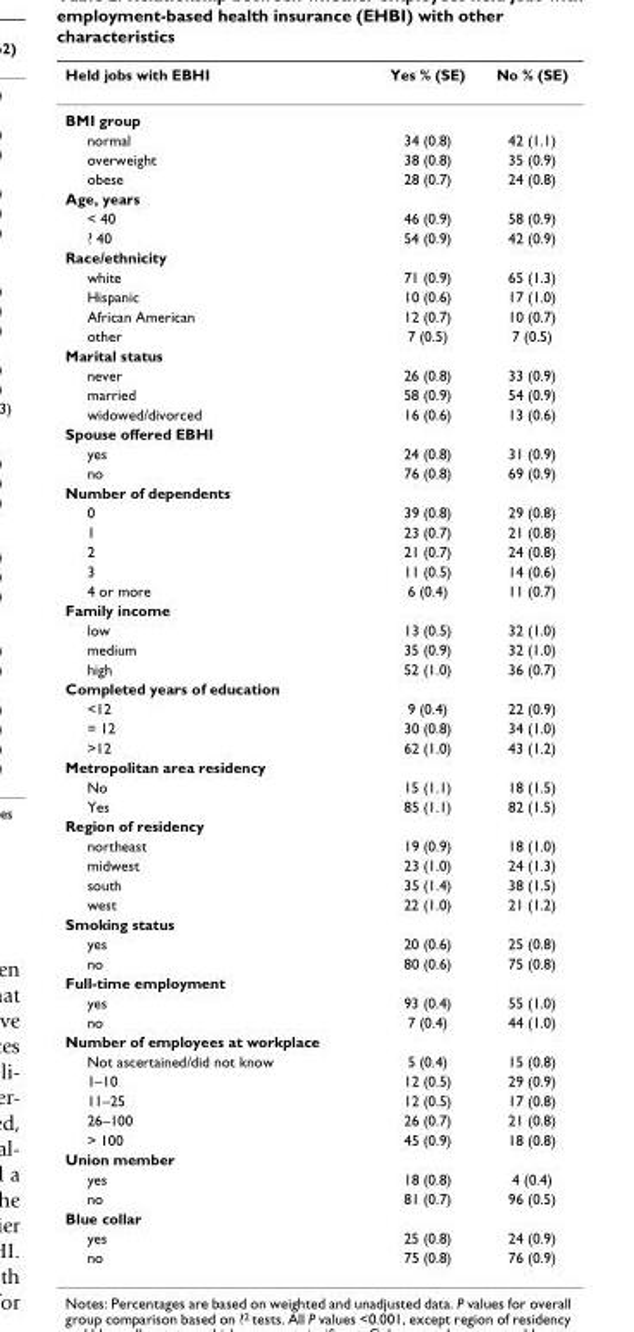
<table><thead><tr><td>Held jobs with EBHI</td><td>Yes % (SE)</td><td>No % (SE)</td></tr></thead><tbody><tr><td colspan="3">BMI group</td></tr><tr><td>normal</td><td>34 (0.8)</td><td>42 (1.1)</td></tr><tr><td>overweight</td><td>38 (0.8)</td><td>35 (0.9)</td></tr><tr><td>obese</td><td>28 (0.7)</td><td>24 (0.8)</td></tr><tr><td colspan="3">Age, years</td></tr><tr><td>&lt; 40</td><td>46 (0.9)</td><td>58 (0.9)</td></tr><tr><td>≥ 40</td><td>54 (0.9)</td><td>42 (0.9)</td></tr><tr><td colspan="3">Race/ethnicity</td></tr><tr><td>white</td><td>71 (0.9)</td><td>65 (1.3)</td></tr><tr><td>Hispanic</td><td>10 (0.6)</td><td>17 (1.0)</td></tr><tr><td>African American</td><td>12 (0.7)</td><td>10 (0.7)</td></tr><tr><td>other</td><td>7 (0.5)</td><td>7 (0.5)</td></tr><tr><td colspan="3">Marital status</td></tr><tr><td>never</td><td>26 (0.8)</td><td>33 (0.9)</td></tr><tr><td>married</td><td>58 (0.9)</td><td>54 (0.9)</td></tr><tr><td>widowed/divorced</td><td>16 (0.6)</td><td>13 (0.6)</td></tr><tr><td colspan="3">Spouse offered EBHI</td></tr><tr><td>yes</td><td>24 (0.8)</td><td>31 (0.9)</td></tr><tr><td>no</td><td>76 (0.8)</td><td>69 (0.9)</td></tr><tr><td colspan="3">Number of dependents</td></tr><tr><td>0</td><td>39 (0.8)</td><td>29 (0.8)</td></tr><tr><td>1</td><td>23 (0.7)</td><td>21 (0.8)</td></tr><tr><td>2</td><td>21 (0.7)</td><td>24 (0.8)</td></tr><tr><td>3</td><td>11 (0.5)</td><td>14 (0.6)</td></tr><tr><td>4 or more</td><td>6 (0.4)</td><td>11 (0.7)</td></tr><tr><td colspan="3">Family income</td></tr><tr><td>low</td><td>13 (0.5)</td><td>32 (1.0)</td></tr><tr><td>medium</td><td>35 (0.9)</td><td>32 (1.0)</td></tr><tr><td>high</td><td>52 (1.0)</td><td>36 (0.7)</td></tr><tr><td colspan="3">Completed years of education</td></tr><tr><td>&lt;12</td><td>9 (0.4)</td><td>22 (0.9)</td></tr><tr><td>= 12</td><td>30 (0.8)</td><td>34 (1.0)</td></tr><tr><td>&gt;12</td><td>62 (1.0)</td><td>43 (1.2)</td></tr><tr><td colspan="3">Metropolitan area residency</td></tr><tr><td>No</td><td>15 (1.1)</td><td>18 (1.5)</td></tr><tr><td>Yes</td><td>85 (1.1)</td><td>82 (1.5)</td></tr><tr><td colspan="3">Region of residency</td></tr><tr><td>northeast</td><td>19 (0.9)</td><td>18 (1.0)</td></tr><tr><td>midwest</td><td>23 (1.0)</td><td>24 (1.3)</td></tr><tr><td>south</td><td>35 (1.4)</td><td>38 (1.5)</td></tr><tr><td>west</td><td>22 (1.0)</td><td>21 (1.2)</td></tr><tr><td colspan="3">Smoking status</td></tr><tr><td>yes</td><td>20 (0.6)</td><td>25 (0.8)</td></tr><tr><td>no</td><td>80 (0.6)</td><td>75 (0.8)</td></tr><tr><td colspan="3">Full-time employment</td></tr><tr><td>yes</td><td>93 (0.4)</td><td>55 (1.0)</td></tr><tr><td>no</td><td>7 (0.4)</td><td>44 (1.0)</td></tr><tr><td colspan="3">Number of employees at workplace</td></tr><tr><td>Not ascertained/did not know</td><td>5 (0.4)</td><td>15 (0.8)</td></tr><tr><td>1–10</td><td>12 (0.5)</td><td>29 (0.9)</td></tr><tr><td>11–25</td><td>12 (0.5)</td><td>17 (0.8)</td></tr><tr><td>26–100</td><td>26 (0.7)</td><td>21 (0.8)</td></tr><tr><td>&gt; 100</td><td>45 (0.9)</td><td>18 (0.8)</td></tr><tr><td colspan="3">Union member</td></tr><tr><td>yes</td><td>18 (0.8)</td><td>4 (0.4)</td></tr><tr><td>no</td><td>81 (0.7)</td><td>96 (0.5)</td></tr><tr><td colspan="3">Blue collar</td></tr><tr><td>yes</td><td>25 (0.8)</td><td>24 (0.9)</td></tr><tr><td>no</td><td>75 (0.8)</td><td>76 (0.9)</td></tr></tbody></table>